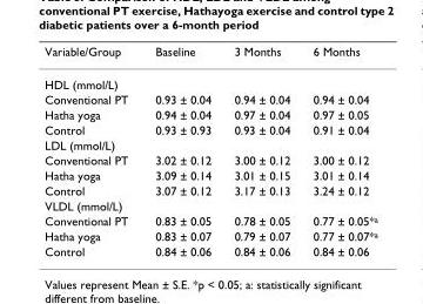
<table><thead><tr><td>Variable/Group</td><td>Baseline</td><td>3 Months</td><td>6 Months</td></tr></thead><tbody><tr><td colspan="4">HDL (mmol/L)</td></tr><tr><td>Conventional PT</td><td>0.93 ± 0.04</td><td>0.94 ± 0.04</td><td>0.94 ± 0.04</td></tr><tr><td>Hatha yoga</td><td>0.94 ± 0.04</td><td>0.97 ± 0.04</td><td>0.97 ± 0.05</td></tr><tr><td>Control</td><td>0.93 ± 0.93</td><td>0.93 ± 0.04</td><td>0.91 ± 0.04</td></tr><tr><td colspan="4">LDL (mmol/L)</td></tr><tr><td>Conventional PT</td><td>3.02 ± 0.12</td><td>3.00 ± 0.12</td><td>3.00 ± 0.12</td></tr><tr><td>Hatha yoga</td><td>3.09 ± 0.14</td><td>3.01 ± 0.15</td><td>3.01 ± 0.14</td></tr><tr><td>Control</td><td>3.07 ± 0.12</td><td>3.17 ± 0.13</td><td>3.24 ± 0.12</td></tr><tr><td colspan="4">VLDL (mmol/L)</td></tr><tr><td>Conventional PT</td><td>0.83 ± 0.05</td><td>0.78 ± 0.05</td><td>0.77 ± 0.05*<sup>a</sup></td></tr><tr><td>Hatha yoga</td><td>0.83 ± 0.07</td><td>0.79 ± 0.07</td><td>0.77 ± 0.07*<sup>a</sup></td></tr><tr><td>Control</td><td>0.84 ± 0.06</td><td>0.84 ± 0.06</td><td>0.84 ± 0.06</td></tr></tbody></table>